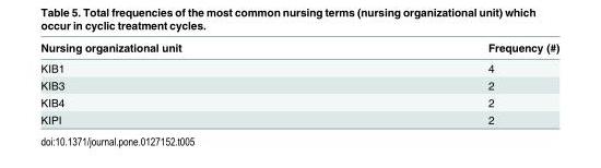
<table><thead><tr><td>Nursing organizational unit</td><td>Frequency (#)</td></tr></thead><tbody><tr><td>KIB1</td><td>4</td></tr><tr><td>KIB3</td><td>2</td></tr><tr><td>KIB4</td><td>2</td></tr><tr><td>KIPI</td><td>2</td></tr></tbody></table>